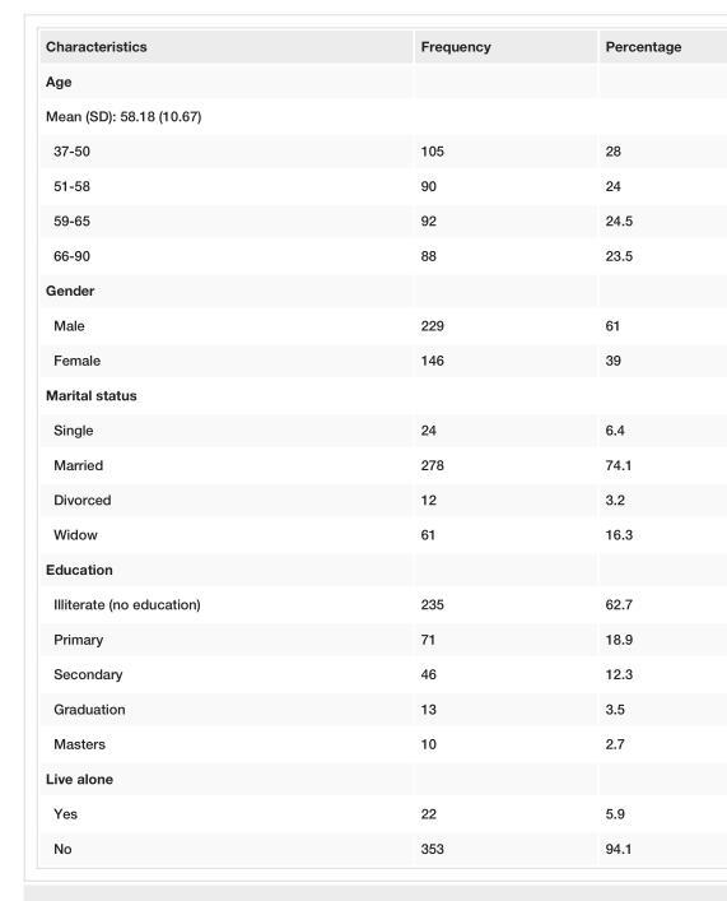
<table><tbody><tr><td>Characteristics</td><td>Frequency</td><td>Percentage</td></tr><tr><td colspan="3">Age</td></tr><tr><td colspan="3">Mean (SD): 58.18 (10.67)</td></tr><tr><td>37-50</td><td>105</td><td>28</td></tr><tr><td>51-58</td><td>90</td><td>24</td></tr><tr><td>59-65</td><td>92</td><td>24.5</td></tr><tr><td>66-90</td><td>88</td><td>23.5</td></tr><tr><td colspan="3">Gender</td></tr><tr><td>Male</td><td>229</td><td>61</td></tr><tr><td>Female</td><td>146</td><td>39</td></tr><tr><td colspan="3">Marital status</td></tr><tr><td>Single</td><td>24</td><td>6.4</td></tr><tr><td>Married</td><td>278</td><td>74.1</td></tr><tr><td>Divorced</td><td>12</td><td>3.2</td></tr><tr><td>Widow</td><td>61</td><td>16.3</td></tr><tr><td colspan="3">Education</td></tr><tr><td>Illiterate (no education)</td><td>235</td><td>62.7</td></tr><tr><td>Primary</td><td>71</td><td>18.9</td></tr><tr><td>Secondary</td><td>46</td><td>12.3</td></tr><tr><td>Graduation</td><td>13</td><td>3.5</td></tr><tr><td>Masters</td><td>10</td><td>2.7</td></tr><tr><td colspan="3">Live alone</td></tr><tr><td>Yes</td><td>22</td><td>5.9</td></tr><tr><td>No</td><td>353</td><td>94.1</td></tr></tbody></table>